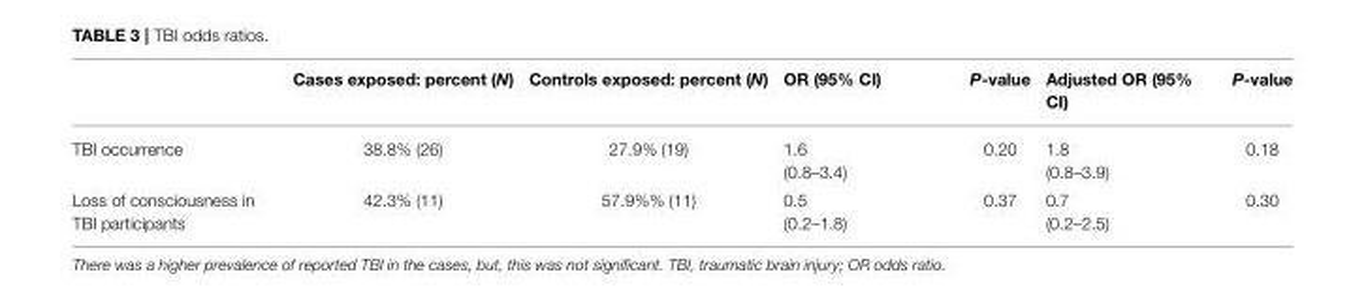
<table><thead><tr><td></td><td>Cases exposed: percent (N)</td><td>Controls exposed: percent (N)</td><td>OR (95% CI)</td><td>P-value</td><td>Adjusted OR (95% CI)</td><td>P-value</td></tr></thead><tbody><tr><td>TBI occurrence</td><td>38.8% (26)</td><td>27.9% (19)</td><td>1.6 (0.8–3.4)</td><td>0.20</td><td>1.8 (0.8–3.9)</td><td>0.18</td></tr><tr><td>Loss of consciousness in TBI participants</td><td>42.3% (11)</td><td>57.9%% (11)</td><td>0.5 (0.2–1.8)</td><td>0.37</td><td>0.7 (0.2–2.5)</td><td>0.30</td></tr></tbody></table>